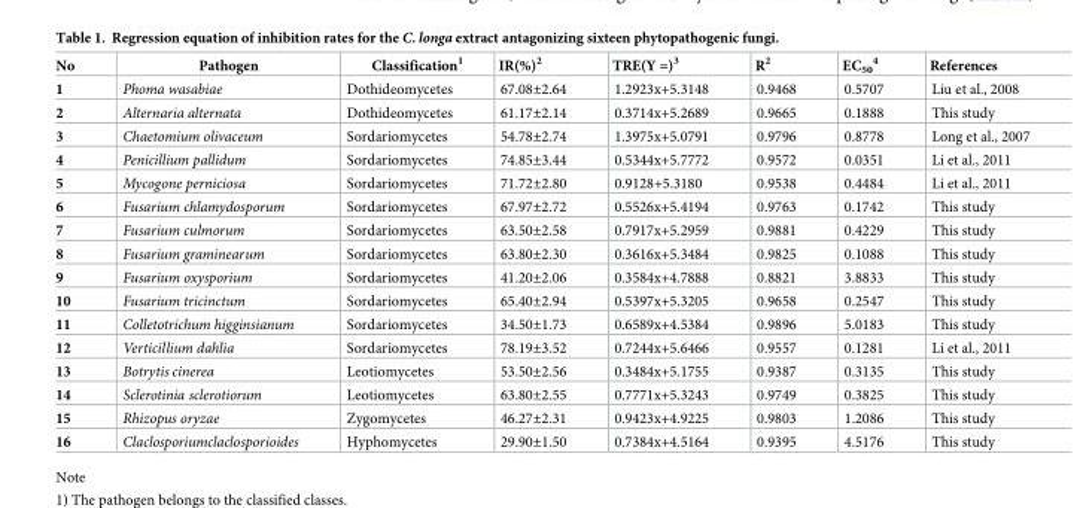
<table><thead><tr><td>No</td><td>Pathogen</td><td>Classification<sup>1</sup></td><td>IR(%)<sup>2</sup></td><td>TRE(Y =)<sup>3</sup></td><td>R<sup>2</sup></td><td>EC<sub>50</sub> <sup>4</sup></td><td>References</td></tr></thead><tbody><tr><td>1</td><td>Phoma wasabiae</td><td>Dothideomycetes</td><td>67.08±2.64</td><td>1.2923x+5.3148</td><td>0.9468</td><td>0.5707</td><td>Liu et al., 2008</td></tr><tr><td>2</td><td>Alternaria alternata</td><td>Dothideomycetes</td><td>61.17±2.14</td><td>0.3714x+5.2689</td><td>0.9665</td><td>0.1888</td><td>This study</td></tr><tr><td>3</td><td>Chaetomium olivaceum</td><td>Sordariomycetes</td><td>54.78±2.74</td><td>1.3975x+5.0791</td><td>0.9796</td><td>0.8778</td><td>Long et al., 2007</td></tr><tr><td>4</td><td>Penicillium pallidum</td><td>Sordariomycetes</td><td>74.85±3.44</td><td>0.5344x+5.7772</td><td>0.9572</td><td>0.0351</td><td>Li et al., 2011</td></tr><tr><td>5</td><td>Mycogone perniciosa</td><td>Sordariomycetes</td><td>71.72±2.80</td><td>0.9128+5.3180</td><td>0.9538</td><td>0.4484</td><td>Li et al., 2011</td></tr><tr><td>6</td><td>Fusarium chlamydosporum</td><td>Sordariomycetes</td><td>67.97±2.72</td><td>0.5526x+5.4194</td><td>0.9763</td><td>0.1742</td><td>This study</td></tr><tr><td>7</td><td>Fusarium culmorum</td><td>Sordariomycetes</td><td>63.50±2.58</td><td>0.7917x+5.2959</td><td>0.9881</td><td>0.4229</td><td>This study</td></tr><tr><td>8</td><td>Fusarium graminearum</td><td>Sordariomycetes</td><td>63.80±2.30</td><td>0.3616x+5.3484</td><td>0.9825</td><td>0.1088</td><td>This study</td></tr><tr><td>9</td><td>Fusarium oxysporium</td><td>Sordariomycetes</td><td>41.20±2.06</td><td>0.3584x+4.7888</td><td>0.8821</td><td>3.8833</td><td>This study</td></tr><tr><td>10</td><td>Fusarium tricinctum</td><td>Sordariomycetes</td><td>65.40±2.94</td><td>0.5397x+5.3205</td><td>0.9658</td><td>0.2547</td><td>This study</td></tr><tr><td>11</td><td>Colletotrichum higginsianum</td><td>Sordariomycetes</td><td>34.50±1.73</td><td>0.6589x+4.5384</td><td>0.9896</td><td>5.0183</td><td>This study</td></tr><tr><td>12</td><td>Verticillium dahlia</td><td>Sordariomycetes</td><td>78.19±3.52</td><td>0.7244x+5.6466</td><td>0.9557</td><td>0.1281</td><td>Li et al., 2011</td></tr><tr><td>13</td><td>Botrytis cinerea</td><td>Leotiomycetes</td><td>53.50±2.56</td><td>0.3484x+5.1755</td><td>0.9387</td><td>0.3135</td><td>This study</td></tr><tr><td>14</td><td>Sclerotinia sclerotiorum</td><td>Leotiomycetes</td><td>63.80±2.55</td><td>0.7771x+5.3243</td><td>0.9749</td><td>0.3825</td><td>This study</td></tr><tr><td>15</td><td>Rhizopus oryzae</td><td>Zygomycetes</td><td>46.27±2.31</td><td>0.9423x+4.9225</td><td>0.9803</td><td>1.2086</td><td>This study</td></tr><tr><td>16</td><td>Claclosporiumclaclosporioides</td><td>Hyphomycetes</td><td>29.90±1.50</td><td>0.7384x+4.5164</td><td>0.9395</td><td>4.5176</td><td>This study</td></tr></tbody></table>